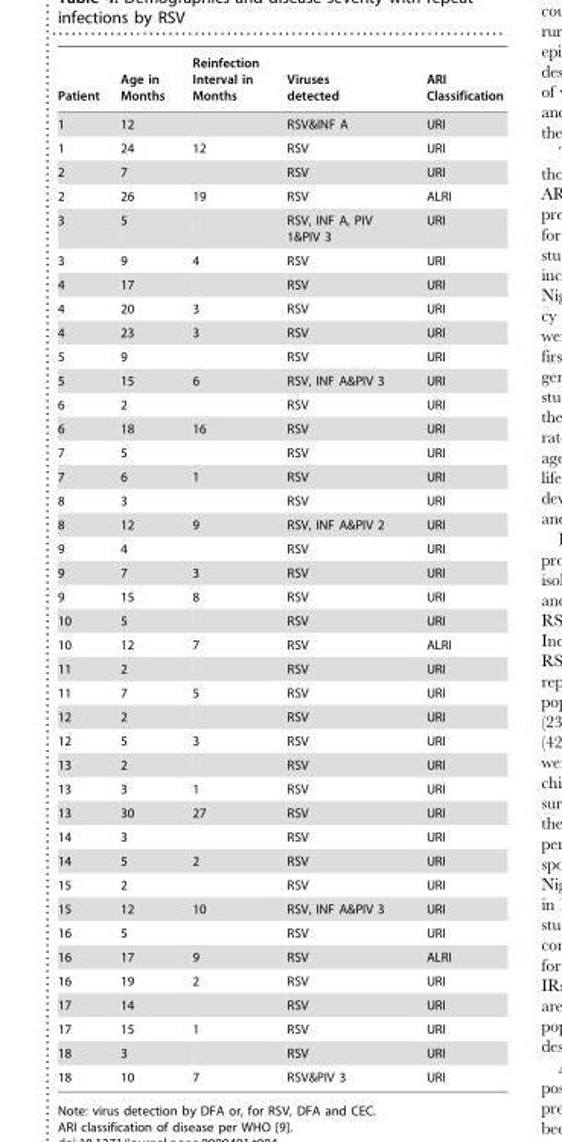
<table><thead><tr><td>Patient</td><td>Age in Months</td><td>Reinfection Interval in Months</td><td>Viruses detected</td><td>ARI Classification</td></tr></thead><tbody><tr><td>1</td><td>12</td><td></td><td>RSV&amp;INF A</td><td>URI</td></tr><tr><td>1</td><td>24</td><td>12</td><td>RSV</td><td>URI</td></tr><tr><td>2</td><td>7</td><td></td><td>RSV</td><td>URI</td></tr><tr><td>2</td><td>26</td><td>19</td><td>RSV</td><td>ALRI</td></tr><tr><td>3</td><td>5</td><td></td><td>RSV, INF A, PIV 1&amp;PIV 3</td><td>URI</td></tr><tr><td>3</td><td>9</td><td>4</td><td>RSV</td><td>URI</td></tr><tr><td>4</td><td>17</td><td></td><td>RSV</td><td>URI</td></tr><tr><td>4</td><td>20</td><td>3</td><td>RSV</td><td>URI</td></tr><tr><td>4</td><td>23</td><td>3</td><td>RSV</td><td>URI</td></tr><tr><td>5</td><td>9</td><td></td><td>RSV</td><td>URI</td></tr><tr><td>5</td><td>15</td><td>6</td><td>RSV, INF A&amp;PIV 3</td><td>URI</td></tr><tr><td>6</td><td>2</td><td></td><td>RSV</td><td>URI</td></tr><tr><td>6</td><td>18</td><td>16</td><td>RSV</td><td>URI</td></tr><tr><td>7</td><td>5</td><td></td><td>RSV</td><td>URI</td></tr><tr><td>7</td><td>6</td><td>1</td><td>RSV</td><td>URI</td></tr><tr><td>8</td><td>3</td><td></td><td>RSV</td><td>URI</td></tr><tr><td>8</td><td>12</td><td>9</td><td>RSV, INF A&amp;PIV 2</td><td>URI</td></tr><tr><td>9</td><td>4</td><td></td><td>RSV</td><td>URI</td></tr><tr><td>9</td><td>7</td><td>3</td><td>RSV</td><td>URI</td></tr><tr><td>9</td><td>15</td><td>8</td><td>RSV</td><td>URI</td></tr><tr><td>10</td><td>5</td><td></td><td>RSV</td><td>URI</td></tr><tr><td>10</td><td>12</td><td>7</td><td>RSV</td><td>ALRI</td></tr><tr><td>11</td><td>2</td><td></td><td>RSV</td><td>URI</td></tr><tr><td>11</td><td>7</td><td>5</td><td>RSV</td><td>URI</td></tr><tr><td>12</td><td>2</td><td></td><td>RSV</td><td>URI</td></tr><tr><td>12</td><td>5</td><td>3</td><td>RSV</td><td>URI</td></tr><tr><td>13</td><td>2</td><td></td><td>RSV</td><td>URI</td></tr><tr><td>13</td><td>3</td><td>1</td><td>RSV</td><td>URI</td></tr><tr><td>13</td><td>30</td><td>27</td><td>RSV</td><td>URI</td></tr><tr><td>14</td><td>3</td><td></td><td>RSV</td><td>URI</td></tr><tr><td>14</td><td>5</td><td>2</td><td>RSV</td><td>URI</td></tr><tr><td>15</td><td>2</td><td></td><td>RSV</td><td>URI</td></tr><tr><td>15</td><td>12</td><td>10</td><td>RSV, INF A&amp;PIV 3</td><td>URI</td></tr><tr><td>16</td><td>5</td><td></td><td>RSV</td><td>URI</td></tr><tr><td>16</td><td>17</td><td>9</td><td>RSV</td><td>ALRI</td></tr><tr><td>16</td><td>19</td><td>2</td><td>RSV</td><td>URI</td></tr><tr><td>17</td><td>14</td><td></td><td>RSV</td><td>URI</td></tr><tr><td>17</td><td>15</td><td>1</td><td>RSV</td><td>URI</td></tr><tr><td>18</td><td>3</td><td></td><td>RSV</td><td>URI</td></tr><tr><td>18</td><td>10</td><td>7</td><td>RSV&amp;PIV 3</td><td>URI</td></tr></tbody></table>